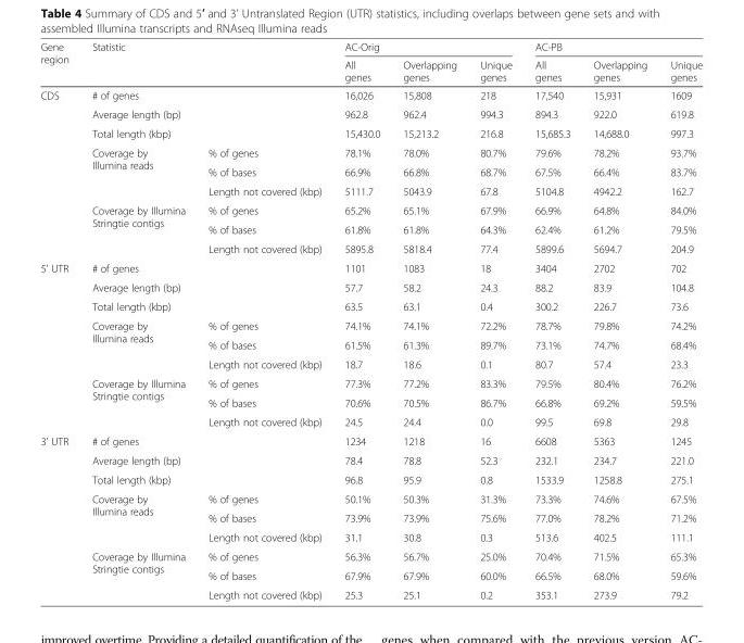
<table><thead><tr><td rowspan="2">Gene region</td><td rowspan="2" colspan="2">Statistic</td><td colspan="3">AC-Orig</td><td colspan="3">AC-PB</td></tr><tr><td>All genes</td><td>Overlapping genes</td><td>Unique genes</td><td>All genes</td><td>Overlapping genes</td><td>Unique genes</td></tr></thead><tbody><tr><td rowspan="9">CDS</td><td colspan="2"># of genes</td><td>16,026</td><td>15,808</td><td>218</td><td>17,540</td><td>15,931</td><td>1609</td></tr><tr><td colspan="2">Average length (bp)</td><td>962.8</td><td>962.4</td><td>994.3</td><td>894.3</td><td>922.0</td><td>619.8</td></tr><tr><td colspan="2">Total length (kbp)</td><td>15,430.0</td><td>15,213.2</td><td>216.8</td><td>15,685.3</td><td>14,688.0</td><td>997.3</td></tr><tr><td rowspan="3">Coverage by Illumina reads</td><td>% of genes</td><td>78.1%</td><td>78.0%</td><td>80.7%</td><td>79.6%</td><td>78.2%</td><td>93.7%</td></tr><tr><td>% of bases</td><td>66.9%</td><td>66.8%</td><td>68.7%</td><td>67.5%</td><td>66.4%</td><td>83.7%</td></tr><tr><td>Length not covered (kbp)</td><td>5111.7</td><td>5043.9</td><td>67.8</td><td>5104.8</td><td>4942.2</td><td>162.7</td></tr><tr><td rowspan="3">Coverage by Illumina Stringtie contigs</td><td>% of genes</td><td>65.2%</td><td>65.1%</td><td>67.9%</td><td>66.9%</td><td>64.8%</td><td>84.0%</td></tr><tr><td>% of bases</td><td>61.8%</td><td>61.8%</td><td>64.3%</td><td>62.4%</td><td>61.2%</td><td>79.5%</td></tr><tr><td>Length not covered (kbp)</td><td>5895.8</td><td>5818.4</td><td>77.4</td><td>5899.6</td><td>5694.7</td><td>204.9</td></tr><tr><td rowspan="9">5’ UTR</td><td colspan="2"># of genes</td><td>1101</td><td>1083</td><td>18</td><td>3404</td><td>2702</td><td>702</td></tr><tr><td colspan="2">Average length (bp)</td><td>57.7</td><td>58.2</td><td>24.3</td><td>88.2</td><td>83.9</td><td>104.8</td></tr><tr><td colspan="2">Total length (kbp)</td><td>63.5</td><td>63.1</td><td>0.4</td><td>300.2</td><td>226.7</td><td>73.6</td></tr><tr><td rowspan="3">Coverage by Illumina reads</td><td>% of genes</td><td>74.1%</td><td>74.1%</td><td>72.2%</td><td>78.7%</td><td>79.8%</td><td>74.2%</td></tr><tr><td>% of bases</td><td>61.5%</td><td>61.3%</td><td>89.7%</td><td>73.1%</td><td>74.7%</td><td>68.4%</td></tr><tr><td>Length not covered (kbp)</td><td>18.7</td><td>18.6</td><td>0.1</td><td>80.7</td><td>57.4</td><td>23.3</td></tr><tr><td rowspan="3">Coverage by Illumina Stringtie contigs</td><td>% of genes</td><td>77.3%</td><td>77.2%</td><td>83.3%</td><td>79.5%</td><td>80.4%</td><td>76.2%</td></tr><tr><td>% of bases</td><td>70.6%</td><td>70.5%</td><td>86.7%</td><td>66.8%</td><td>69.2%</td><td>59.5%</td></tr><tr><td>Length not covered (kbp)</td><td>24.5</td><td>24.4</td><td>0.0</td><td>99.5</td><td>69.8</td><td>29.8</td></tr><tr><td rowspan="9">3’ UTR</td><td colspan="2"># of genes</td><td>1234</td><td>1218</td><td>16</td><td>6608</td><td>5363</td><td>1245</td></tr><tr><td colspan="2">Average length (bp)</td><td>78.4</td><td>78.8</td><td>52.3</td><td>232.1</td><td>234.7</td><td>221.0</td></tr><tr><td colspan="2">Total length (kbp)</td><td>96.8</td><td>95.9</td><td>0.8</td><td>1533.9</td><td>1258.8</td><td>275.1</td></tr><tr><td rowspan="3">Coverage by Illumina reads</td><td>% of genes</td><td>50.1%</td><td>50.3%</td><td>31.3%</td><td>73.3%</td><td>74.6%</td><td>67.5%</td></tr><tr><td>% of bases</td><td>73.9%</td><td>73.9%</td><td>75.6%</td><td>77.0%</td><td>78.2%</td><td>71.2%</td></tr><tr><td>Length not covered (kbp)</td><td>31.1</td><td>30.8</td><td>0.3</td><td>513.6</td><td>402.5</td><td>111.1</td></tr><tr><td rowspan="3">Coverage by Illumina Stringtie contigs</td><td>% of genes</td><td>56.3%</td><td>56.7%</td><td>25.0%</td><td>70.4%</td><td>71.5%</td><td>65.3%</td></tr><tr><td>% of bases</td><td>67.9%</td><td>67.9%</td><td>60.0%</td><td>66.5%</td><td>68.0%</td><td>59.6%</td></tr><tr><td>Length not covered (kbp)</td><td>25.3</td><td>25.1</td><td>0.2</td><td>353.1</td><td>273.9</td><td>79.2</td></tr></tbody></table>